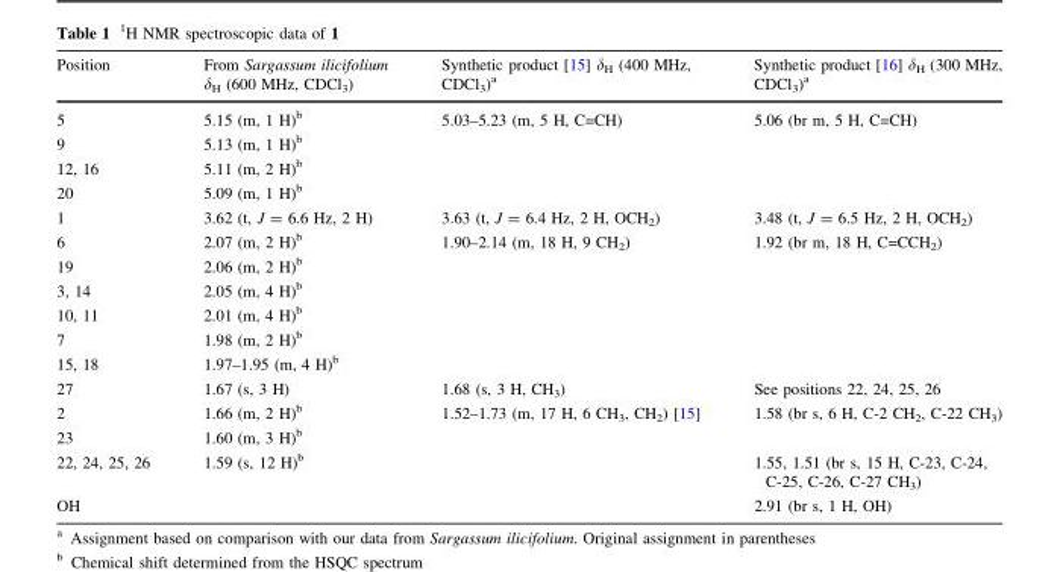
<table><thead><tr><td>Position</td><td>From Sargassum ilicifolium δ<sub>H</sub> (600 MHz, CDCl<sub>3</sub>)</td><td>Synthetic product [15] δ<sub>H</sub> (400 MHz, CDCl<sub>3</sub>)<sup>a</sup></td><td>Synthetic product [16] δ<sub>H</sub> (300 MHz, CDCl<sub>3</sub>)<sup>a</sup></td></tr></thead><tbody><tr><td>5</td><td>5.15 (m, 1 H)<sup>b</sup></td><td rowspan="4">5.03–5.23 (m, 5 H, C=CH)</td><td rowspan="4">5.06 (br m, 5 H, C=CH)</td></tr><tr><td>9</td><td>5.13 (m, 1 H)<sup>b</sup></td></tr><tr><td>12, 16</td><td>5.11 (m, 2 H)<sup>b</sup></td></tr><tr><td>20</td><td>5.09 (m, 1 H)<sup>b</sup></td></tr><tr><td>1</td><td>3.62 (t, J = 6.6 Hz, 2 H)</td><td>3.63 (t, J = 6.4 Hz, 2 H, OCH<sub>2</sub>)</td><td>3.48 (t, J = 6.5 Hz, 2 H, OCH<sub>2</sub>)</td></tr><tr><td>6</td><td>2.07 (m, 2 H)<sup>b</sup></td><td rowspan="6">1.90–2.14 (m, 18 H, 9 CH<sub>2</sub>)</td><td rowspan="6">1.92 (br m, 18 H, C=CCH<sub>2</sub>)</td></tr><tr><td>19</td><td>2.06 (m, 2 H)<sup>b</sup></td></tr><tr><td>3, 14</td><td>2.05 (m, 4 H)<sup>b</sup></td></tr><tr><td>10, 11</td><td>2.01 (m, 4 H)<sup>b</sup></td></tr><tr><td>7</td><td>1.98 (m, 2 H)<sup>b</sup></td></tr><tr><td>15, 18</td><td>1.97–1.95 (m, 4 H)<sup>b</sup></td></tr><tr><td>27</td><td>1.67 (s, 3 H)</td><td>1.68 (s, 3 H, CH<sub>3</sub>)</td><td>See positions 22, 24, 25, 26</td></tr><tr><td>2</td><td>1.66 (m, 2 H)<sup>b</sup></td><td rowspan="3">1.52–1.73 (m, 17 H, 6 CH<sub>3</sub>, CH<sub>2</sub>) [15]</td><td rowspan="2">1.58 (br s, 6 H, C-2 CH<sub>2</sub>, C-22 CH<sub>3</sub>)</td></tr><tr><td>23</td><td>1.60 (m, 3 H)<sup>b</sup></td></tr><tr><td>22, 24, 25, 26</td><td>1.59 (s, 12 H)<sup>b</sup></td><td>1.55, 1.51 (br s, 15 H, C-23, C-24, C-25, C-26, C-27 CH<sub>3</sub>)</td></tr><tr><td>OH</td><td></td><td></td><td>2.91 (br s, 1 H, OH)</td></tr></tbody></table>